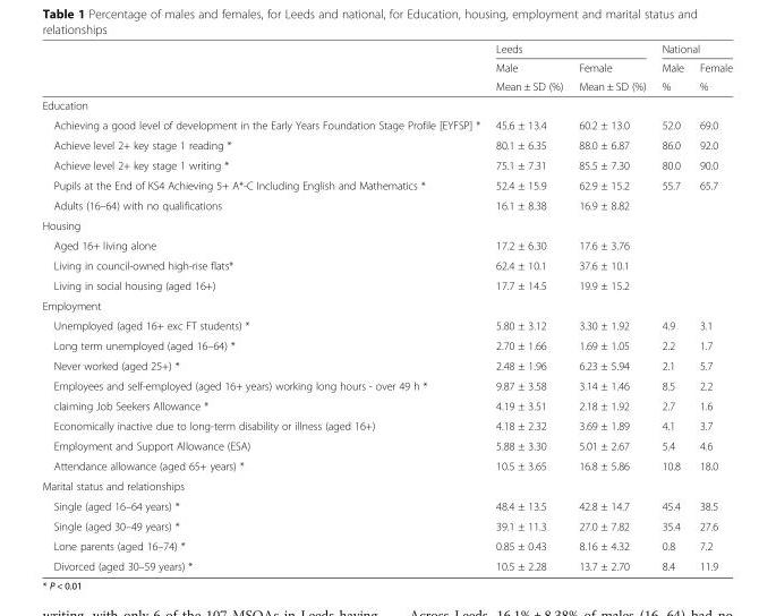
<table><thead><tr><td rowspan="3"></td><td colspan="2">Leeds</td><td colspan="2">National</td></tr><tr><td rowspan="2">Male Mean ± SD (%)</td><td rowspan="2">Female Mean ± SD (%)</td><td rowspan="2">Male %</td><td rowspan="2">Female %</td></tr><tr></tr></thead><tbody><tr><td colspan="5">Education</td></tr><tr><td>Achieving a good level of development in the Early Years Foundation Stage Profile [EYFSP] *</td><td>45.6 ± 13.4</td><td>60.2 ± 13.0</td><td>52.0</td><td>69.0</td></tr><tr><td>Achieve level 2+ key stage 1 reading *</td><td>80.1 ± 6.35</td><td>88.0 ± 6.87</td><td>86.0</td><td>92.0</td></tr><tr><td>Achieve level 2+ key stage 1 writing *</td><td>75.1 ± 7.31</td><td>85.5 ± 7.30</td><td>80.0</td><td>90.0</td></tr><tr><td>Pupils at the End of KS4 Achieving 5+ A*-C Including English and Mathematics *</td><td>52.4 ± 15.9</td><td>62.9 ± 15.2</td><td>55.7</td><td>65.7</td></tr><tr><td>Adults (16–64) with no qualifications</td><td>16.1 ± 8.38</td><td>16.9 ± 8.82</td><td></td><td></td></tr><tr><td colspan="5">Housing</td></tr><tr><td>Aged 16+ living alone</td><td>17.2 ± 6.30</td><td>17.6 ± 3.76</td><td></td><td></td></tr><tr><td>Living in council-owned high-rise flats*</td><td>62.4 ± 10.1</td><td>37.6 ± 10.1</td><td></td><td></td></tr><tr><td>Living in social housing (aged 16+)</td><td>17.7 ± 14.5</td><td>19.9 ± 15.2</td><td></td><td></td></tr><tr><td colspan="5">Employment</td></tr><tr><td>Unemployed (aged 16+ exc FT students) *</td><td>5.80 ± 3.12</td><td>3.30 ± 1.92</td><td>4.9</td><td>3.1</td></tr><tr><td>Long term unemployed (aged 16–64) *</td><td>2.70 ± 1.66</td><td>1.69 ± 1.05</td><td>2.2</td><td>1.7</td></tr><tr><td>Never worked (aged 25+) *</td><td>2.48 ± 1.96</td><td>6.23 ± 5.94</td><td>2.1</td><td>5.7</td></tr><tr><td>Employees and self-employed (aged 16+ years) working long hours - over 49 h *</td><td>9.87 ± 3.58</td><td>3.14 ± 1.46</td><td>8.5</td><td>2.2</td></tr><tr><td>claiming Job Seekers Allowance *</td><td>4.19 ± 3.51</td><td>2.18 ± 1.92</td><td>2.7</td><td>1.6</td></tr><tr><td>Economically inactive due to long-term disability or illness (aged 16+)</td><td>4.18 ± 2.32</td><td>3.69 ± 1.89</td><td>4.1</td><td>3.7</td></tr><tr><td>Employment and Support Allowance (ESA)</td><td>5.88 ± 3.30</td><td>5.01 ± 2.67</td><td>5.4</td><td>4.6</td></tr><tr><td>Attendance allowance (aged 65+ years) *</td><td>10.5 ± 3.65</td><td>16.8 ± 5.86</td><td>10.8</td><td>18.0</td></tr><tr><td colspan="5">Marital status and relationships</td></tr><tr><td>Single (aged 16–64 years) *</td><td>48.4 ± 13.5</td><td>42.8 ± 14.7</td><td>45.4</td><td>38.5</td></tr><tr><td>Single (aged 30–49 years) *</td><td>39.1 ± 11.3</td><td>27.0 ± 7.82</td><td>35.4</td><td>27.6</td></tr><tr><td>Lone parents (aged 16–74) *</td><td>0.85 ± 0.43</td><td>8.16 ± 4.32</td><td>0.8</td><td>7.2</td></tr><tr><td>Divorced (aged 30–59 years) *</td><td>10.5 ± 2.28</td><td>13.7 ± 2.70</td><td>8.4</td><td>11.9</td></tr></tbody></table>